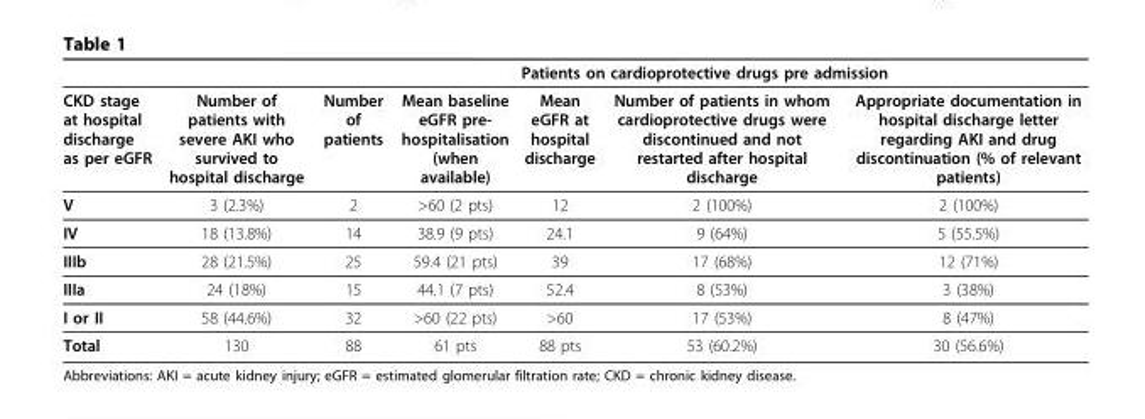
<table><thead><tr><td rowspan="2">CKD stage at hospital discharge as per eGFR</td><td rowspan="2">Number of patients with severe AKI who survived to hospital discharge</td><td colspan="5">Patients on cardioprotective drugs pre admission</td></tr><tr><td>Number of patients</td><td>Mean baseline eGFR pre- hospitalisation (when available)</td><td>Mean eGFR at hospital discharge</td><td>Number of patients in whom cardioprotective drugs were discontinued and not restarted after hospital discharge</td><td>Appropriate documentation in hospital discharge letter regarding AKI and drug discontinuation (% of relevant patients)</td></tr></thead><tbody><tr><td>V</td><td>3 (2.3%)</td><td>2</td><td>&gt;60 (2 pts)</td><td>12</td><td>2 (100%)</td><td>2 (100%)</td></tr><tr><td>IV</td><td>18 (13.8%)</td><td>14</td><td>38.9 (9 pts)</td><td>24.1</td><td>9 (64%)</td><td>5 (55.5%)</td></tr><tr><td>IIIb</td><td>28 (21.5%)</td><td>25</td><td>59.4 (21 pts)</td><td>39</td><td>17 (68%)</td><td>12 (71%)</td></tr><tr><td>IIIa</td><td>24 (18%)</td><td>15</td><td>44.1 (7 pts)</td><td>52.4</td><td>8 (53%)</td><td>3 (38%)</td></tr><tr><td>I or II</td><td>58 (44.6%)</td><td>32</td><td>&gt;60 (22 pts)</td><td>&gt;60</td><td>17 (53%)</td><td>8 (47%)</td></tr><tr><td>Total</td><td>130</td><td>88</td><td>61 pts</td><td>88 pts</td><td>53 (60.2%)</td><td>30 (56.6%)</td></tr></tbody></table>